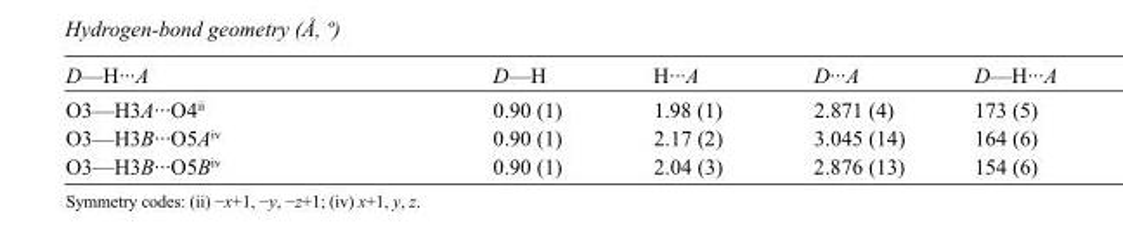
<table><tbody><tr><td>D—H···A</td><td>D—H</td><td>H···A</td><td>D···A</td><td>D—H···A</td></tr><tr><td>O3—H3A···O4<sup>ii</sup></td><td>0.90 (1)</td><td>1.98 (1)</td><td>2.871 (4)</td><td>173 (5)</td></tr><tr><td>O3—H3B···O5A<sup>iv</sup></td><td>0.90 (1)</td><td>2.17 (2)</td><td>3.045 (14)</td><td>164 (6)</td></tr><tr><td>O3—H3B···O5B<sup>iv</sup></td><td>0.90 (1)</td><td>2.04 (3)</td><td>2.876 (13)</td><td>154 (6)</td></tr></tbody></table>